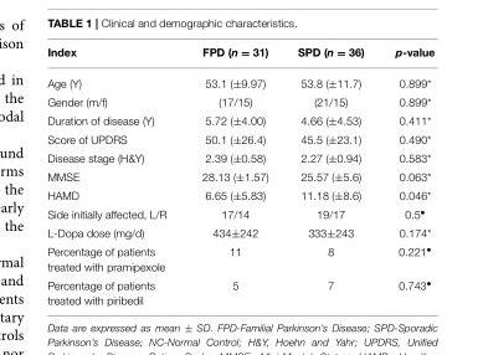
<table><thead><tr><td>Index</td><td>FPD (n = 31)</td><td>SPD (n = 36)</td><td>p-value</td></tr></thead><tbody><tr><td>Age (Y)</td><td>53.1 (±9.97)</td><td>53.8 (±11.7)</td><td>0.899*</td></tr><tr><td>Gender (m/f)</td><td>(17/15)</td><td>(21/15)</td><td>0.899*</td></tr><tr><td>Duration of disease (Y)</td><td>5.72 (±4.00)</td><td>4.66 (±4.53)</td><td>0.411*</td></tr><tr><td>Score of UPDRS</td><td>50.1 (±26.4)</td><td>45.5 (±23.1)</td><td>0.490*</td></tr><tr><td>Disease stage (H&amp;Y)</td><td>2.39 (±0.58)</td><td>2.27 (±0.94)</td><td>0.583*</td></tr><tr><td>MMSE</td><td>28.13 (±1.57)</td><td>25.57 (±5.6)</td><td>0.063*</td></tr><tr><td>HAMD</td><td>6.65 (±5.83)</td><td>11.18 (±8.6)</td><td>0.046*</td></tr><tr><td>Side initially affected, L/R</td><td>17/14</td><td>19/17</td><td>0.5<sup>•</sup></td></tr><tr><td>L-Dopa dose (mg/d)</td><td>434±242</td><td>333±243</td><td>0.174*</td></tr><tr><td>Percentage of patients treated with pramipexole</td><td>11</td><td>8</td><td>0.221<sup>•</sup></td></tr><tr><td>Percentage of patients treated with piribedil</td><td>5</td><td>7</td><td>0.743<sup>•</sup></td></tr></tbody></table>